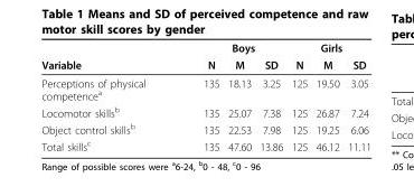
<table><thead><tr><td rowspan="2">Variable</td><td colspan="3">Boys</td><td colspan="3">Girls</td></tr><tr><td>N</td><td>M</td><td>SD</td><td>N</td><td>M</td><td>SD</td></tr></thead><tbody><tr><td>Perceptions of physical competence<sup>a</sup></td><td>135</td><td>18.13</td><td>3.25</td><td>125</td><td>19.50</td><td>3.05</td></tr><tr><td>Locomotor skills<sup>b</sup></td><td>135</td><td>25.07</td><td>7.38</td><td>125</td><td>26.87</td><td>7.24</td></tr><tr><td>Object control skills<sup>b</sup></td><td>135</td><td>22.53</td><td>7.98</td><td>125</td><td>19.25</td><td>6.06</td></tr><tr><td>Total skills<sup>c</sup></td><td>135</td><td>47.60</td><td>13.86</td><td>125</td><td>46.12</td><td>11.11</td></tr></tbody></table>